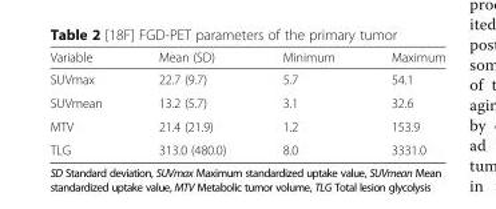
<table><thead><tr><td>Variable</td><td>Mean (SD)</td><td>Minimum</td><td>Maximum</td></tr></thead><tbody><tr><td>SUVmax</td><td>22.7 (9.7)</td><td>5.7</td><td>54.1</td></tr><tr><td>SUVmean</td><td>13.2 (5.7)</td><td>3.1</td><td>32.6</td></tr><tr><td>MTV</td><td>21.4 (21.9)</td><td>1.2</td><td>153.9</td></tr><tr><td>TLG</td><td>313.0 (480.0)</td><td>8.0</td><td>3331.0</td></tr></tbody></table>